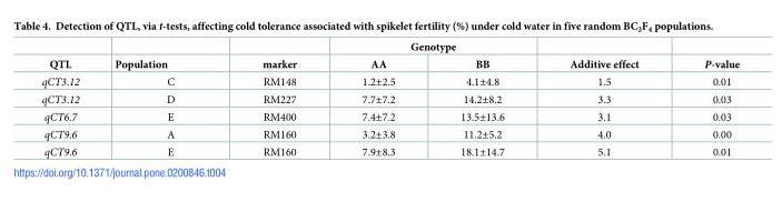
<table><thead><tr><td rowspan="2">QTL</td><td rowspan="2">Population</td><td rowspan="2">marker</td><td colspan="2">Genotype</td><td rowspan="2">Additive effect</td><td rowspan="2">P-value</td></tr><tr><td>AA</td><td>BB</td></tr></thead><tbody><tr><td>qCT3.12</td><td>C</td><td>RM148</td><td>1.2±2.5</td><td>4.1±4.8</td><td>1.5</td><td>0.01</td></tr><tr><td>qCT3.12</td><td>D</td><td>RM227</td><td>7.7±7.2</td><td>14.2±8.2</td><td>3.3</td><td>0.03</td></tr><tr><td>qCT6.7</td><td>E</td><td>RM400</td><td>7.4±7.2</td><td>13.5±13.6</td><td>3.1</td><td>0.03</td></tr><tr><td>qCT9.6</td><td>A</td><td>RM160</td><td>3.2±3.8</td><td>11.2±5.2</td><td>4.0</td><td>0.00</td></tr><tr><td>qCT9.6</td><td>E</td><td>RM160</td><td>7.9±8.3</td><td>18.1±14.7</td><td>5.1</td><td>0.01</td></tr></tbody></table>